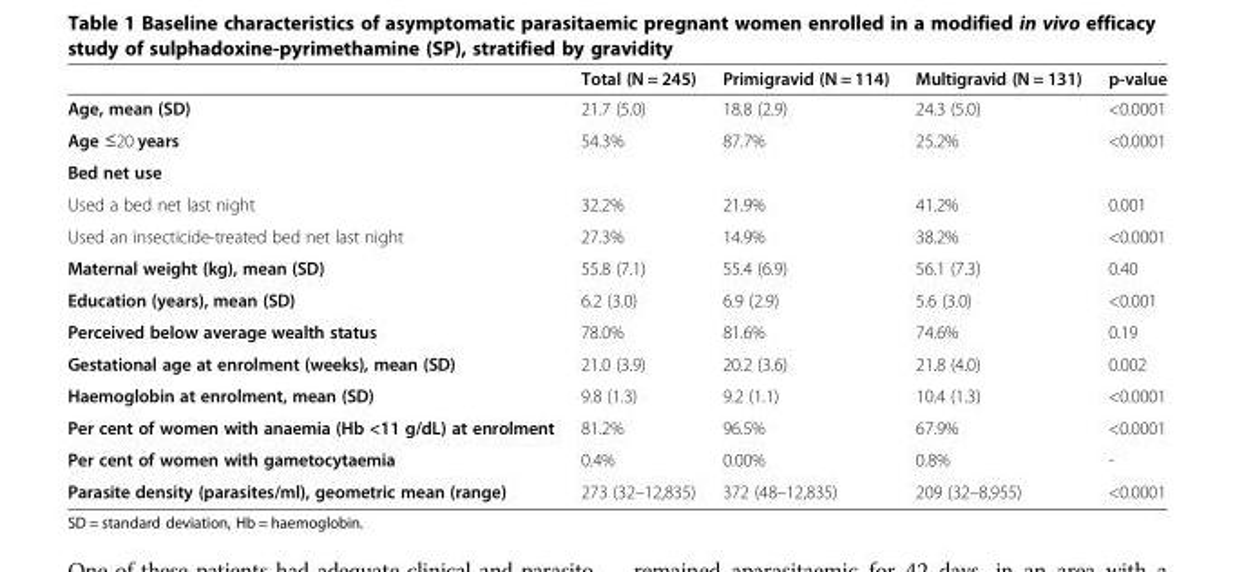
<table><thead><tr><td></td><td>Total (N = 245)</td><td>Primigravid (N = 114)</td><td>Multigravid (N = 131)</td><td>p-value</td></tr></thead><tbody><tr><td>Age, mean (SD)</td><td>21.7 (5.0)</td><td>18.8 (2.9)</td><td>24.3 (5.0)</td><td>&lt;0.0001</td></tr><tr><td>Age ≤20 years</td><td>54.3%</td><td>87.7%</td><td>25.2%</td><td>&lt;0.0001</td></tr><tr><td colspan="5">Bed net use</td></tr><tr><td>Used a bed net last night</td><td>32.2%</td><td>21.9%</td><td>41.2%</td><td>0.001</td></tr><tr><td>Used an insecticide-treated bed net last night</td><td>27.3%</td><td>14.9%</td><td>38.2%</td><td>&lt;0.0001</td></tr><tr><td>Maternal weight (kg), mean (SD)</td><td>55.8 (7.1)</td><td>55.4 (6.9)</td><td>56.1 (7.3)</td><td>0.40</td></tr><tr><td>Education (years), mean (SD)</td><td>6.2 (3.0)</td><td>6.9 (2.9)</td><td>5.6 (3.0)</td><td>&lt;0.001</td></tr><tr><td>Perceived below average wealth status</td><td>78.0%</td><td>81.6%</td><td>74.6%</td><td>0.19</td></tr><tr><td>Gestational age at enrolment (weeks), mean (SD)</td><td>21.0 (3.9)</td><td>20.2 (3.6)</td><td>21.8 (4.0)</td><td>0.002</td></tr><tr><td>Haemoglobin at enrolment, mean (SD)</td><td>9.8 (1.3)</td><td>9.2 (1.1)</td><td>10.4 (1.3)</td><td>&lt;0.0001</td></tr><tr><td>Per cent of women with anaemia (Hb &lt;11 g/dL) at enrolment</td><td>81.2%</td><td>96.5%</td><td>67.9%</td><td>&lt;0.0001</td></tr><tr><td>Per cent of women with gametocytaemia</td><td>0.4%</td><td>0.00%</td><td>0.8%</td><td>-</td></tr><tr><td>Parasite density (parasites/ml), geometric mean (range)</td><td>273 (32–12,835)</td><td>372 (48–12,835)</td><td>209 (32–8,955)</td><td>&lt;0.0001</td></tr></tbody></table>